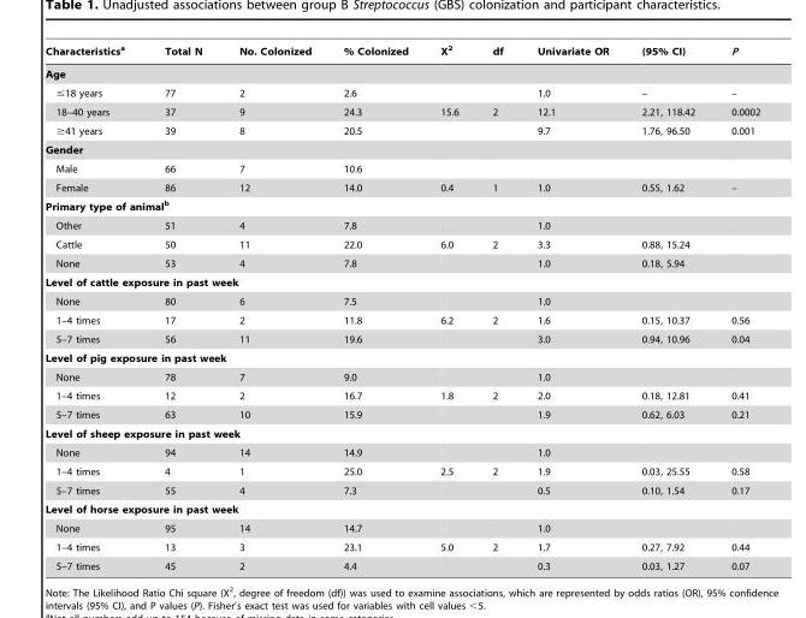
<table><thead><tr><td>Characteristics<sup>a</sup></td><td>Total N</td><td>No. Colonized</td><td>% Colonized</td><td>X<sup>2</sup></td><td>df</td><td>Univariate OR</td><td>(95% CI)</td><td>P</td></tr></thead><tbody><tr><td colspan="9">Age</td></tr><tr><td>≤18 years</td><td>77</td><td>2</td><td>2.6</td><td></td><td></td><td>1.0</td><td>–</td><td>–</td></tr><tr><td>18–40 years</td><td>37</td><td>9</td><td>24.3</td><td>15.6</td><td>2</td><td>12.1</td><td>2.21, 118.42</td><td>0.0002</td></tr><tr><td>≥41 years</td><td>39</td><td>8</td><td>20.5</td><td></td><td></td><td>9.7</td><td>1.76, 96.50</td><td>0.001</td></tr><tr><td colspan="9">Gender</td></tr><tr><td>Male</td><td>66</td><td>7</td><td>10.6</td><td></td><td></td><td></td><td></td><td></td></tr><tr><td>Female</td><td>86</td><td>12</td><td>14.0</td><td>0.4</td><td>1</td><td>1.0</td><td>0.55, 1.62</td><td>–</td></tr><tr><td colspan="9">Primary type of animalb</td></tr><tr><td>Other</td><td>51</td><td>4</td><td>7.8</td><td></td><td></td><td>1.0</td><td></td><td></td></tr><tr><td>Cattle</td><td>50</td><td>11</td><td>22.0</td><td>6.0</td><td>2</td><td>3.3</td><td>0.88, 15.24</td><td></td></tr><tr><td>None</td><td>53</td><td>4</td><td>7.8</td><td></td><td></td><td>1.0</td><td>0.18, 5.94</td><td></td></tr><tr><td colspan="9">Level of cattle exposure in past week</td></tr><tr><td>None</td><td>80</td><td>6</td><td>7.5</td><td></td><td></td><td>1.0</td><td></td><td></td></tr><tr><td>1–4 times</td><td>17</td><td>2</td><td>11.8</td><td>6.2</td><td>2</td><td>1.6</td><td>0.15, 10.37</td><td>0.56</td></tr><tr><td>5–7 times</td><td>56</td><td>11</td><td>19.6</td><td></td><td></td><td>3.0</td><td>0.94, 10.96</td><td>0.04</td></tr><tr><td colspan="9">Level of pig exposure in past week</td></tr><tr><td>None</td><td>78</td><td>7</td><td>9.0</td><td></td><td></td><td>1.0</td><td></td><td></td></tr><tr><td>1–4 times</td><td>12</td><td>2</td><td>16.7</td><td>1.8</td><td>2</td><td>2.0</td><td>0.18, 12.81</td><td>0.41</td></tr><tr><td>5–7 times</td><td>63</td><td>10</td><td>15.9</td><td></td><td></td><td>1.9</td><td>0.62, 6.03</td><td>0.21</td></tr><tr><td colspan="9">Level of sheep exposure in past week</td></tr><tr><td>None</td><td>94</td><td>14</td><td>14.9</td><td></td><td></td><td>1.0</td><td></td><td></td></tr><tr><td>1–4 times</td><td>4</td><td>1</td><td>25.0</td><td>2.5</td><td>2</td><td>1.9</td><td>0.03, 25.55</td><td>0.58</td></tr><tr><td>5–7 times</td><td>55</td><td>4</td><td>7.3</td><td></td><td></td><td>0.5</td><td>0.10, 1.54</td><td>0.17</td></tr><tr><td colspan="9">Level of horse exposure in past week</td></tr><tr><td>None</td><td>95</td><td>14</td><td>14.7</td><td></td><td></td><td>1.0</td><td></td><td></td></tr><tr><td>1–4 times</td><td>13</td><td>3</td><td>23.1</td><td>5.0</td><td>2</td><td>1.7</td><td>0.27, 7.92</td><td>0.44</td></tr><tr><td>5–7 times</td><td>45</td><td>2</td><td>4.4</td><td></td><td></td><td>0.3</td><td>0.03, 1.27</td><td>0.07</td></tr></tbody></table>